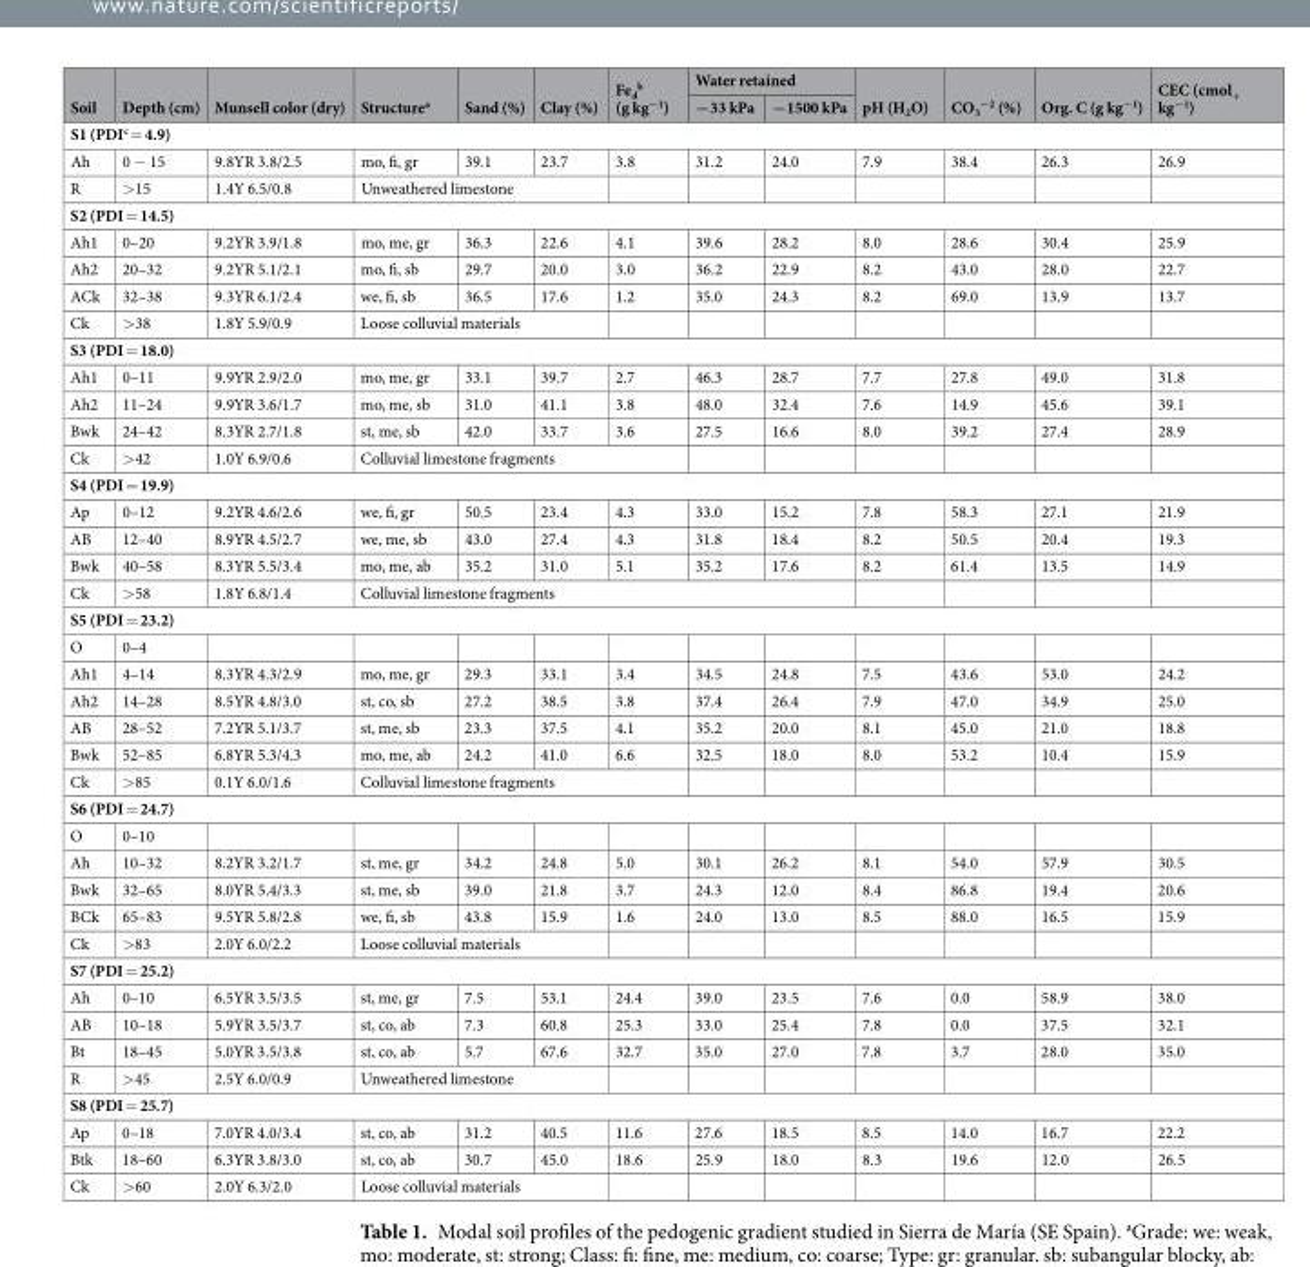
<table><thead><tr><td rowspan="2">Soil</td><td rowspan="2">Depth (cm)</td><td rowspan="2">Munsell color (dry)</td><td rowspan="2">Structure<sup>a</sup></td><td rowspan="2">Sand (%)</td><td rowspan="2">Clay (%)</td><td rowspan="2">Fe<sub>d</sub> <sup>b</sup> (g kg<sup>−1</sup>)</td><td colspan="2">Water retained</td><td rowspan="2">pH (H<sub>2</sub>O)</td><td rowspan="2">CO<sub>3</sub> <sup>−2</sup> (%)</td><td rowspan="2">Org. C (g kg<sup>−1</sup>)</td><td rowspan="2">CEC (cmol<sub>+</sub> kg<sup>−1</sup>)</td></tr><tr><td>−33 kPa</td><td>−1500 kPa</td></tr></thead><tbody><tr><td colspan="13">S1 (PDI<sup>c</sup> = 4.9)</td></tr><tr><td>Ah</td><td>0 − 15</td><td>9.8YR 3.8/2.5</td><td>mo, fi, gr</td><td>39.1</td><td>23.7</td><td>3.8</td><td>31.2</td><td>24.0</td><td>7.9</td><td>38.4</td><td>26.3</td><td>26.9</td></tr><tr><td>R</td><td>&gt;15</td><td>1.4Y 6.5/0.8</td><td colspan="3">Unweathered limestone</td><td></td><td></td><td></td><td></td><td></td><td></td><td></td></tr><tr><td colspan="13">S2 (PDI = 14.5)</td></tr><tr><td>Ah1</td><td>0–20</td><td>9.2YR 3.9/1.8</td><td>mo, me, gr</td><td>36.3</td><td>22.6</td><td>4.1</td><td>39.6</td><td>28.2</td><td>8.0</td><td>28.6</td><td>30.4</td><td>25.9</td></tr><tr><td>Ah2</td><td>20–32</td><td>9.2YR 5.1/2.1</td><td>mo, fi, sb</td><td>29.7</td><td>20.0</td><td>3.0</td><td>36.2</td><td>22.9</td><td>8.2</td><td>43.0</td><td>28.0</td><td>22.7</td></tr><tr><td>ACk</td><td>32–38</td><td>9.3YR 6.1/2.4</td><td>we, fi, sb</td><td>36.5</td><td>17.6</td><td>1.2</td><td>35.0</td><td>24.3</td><td>8.2</td><td>69.0</td><td>13.9</td><td>13.7</td></tr><tr><td>Ck</td><td>&gt;38</td><td>1.8Y 5.9/0.9</td><td colspan="3">Loose colluvial materials</td><td></td><td></td><td></td><td></td><td></td><td></td><td></td></tr><tr><td colspan="13">S3 (PDI = 18.0)</td></tr><tr><td>Ah1</td><td>0–11</td><td>9.9YR 2.9/2.0</td><td>mo, me, gr</td><td>33.1</td><td>39.7</td><td>2.7</td><td>46.3</td><td>28.7</td><td>7.7</td><td>27.8</td><td>49.0</td><td>31.8</td></tr><tr><td>Ah2</td><td>11–24</td><td>9.9YR 3.6/1.7</td><td>mo, me, sb</td><td>31.0</td><td>41.1</td><td>3.8</td><td>48.0</td><td>32.4</td><td>7.6</td><td>14.9</td><td>45.6</td><td>39.1</td></tr><tr><td>Bwk</td><td>24–42</td><td>8.3YR 2.7/1.8</td><td>st, me, sb</td><td>42.0</td><td>33.7</td><td>3.6</td><td>27.5</td><td>16.6</td><td>8.0</td><td>39.2</td><td>27.4</td><td>28.9</td></tr><tr><td>Ck</td><td>&gt;42</td><td>1.0Y 6.9/0.6</td><td colspan="4">Colluvial limestone fragments</td><td></td><td></td><td></td><td></td><td></td><td></td></tr><tr><td colspan="13">S4 (PDI = 19.9)</td></tr><tr><td>Ap</td><td>0–12</td><td>9.2YR 4.6/2.6</td><td>we, fi, gr</td><td>50.5</td><td>23.4</td><td>4.3</td><td>33.0</td><td>15.2</td><td>7.8</td><td>58.3</td><td>27.1</td><td>21.9</td></tr><tr><td>AB</td><td>12–40</td><td>8.9YR 4.5/2.7</td><td>we, me, sb</td><td>43.0</td><td>27.4</td><td>4.3</td><td>31.8</td><td>18.4</td><td>8.2</td><td>50.5</td><td>20.4</td><td>19.3</td></tr><tr><td>Bwk</td><td>40–58</td><td>8.3YR 5.5/3.4</td><td>mo, me, ab</td><td>35.2</td><td>31.0</td><td>5.1</td><td>35.2</td><td>17.6</td><td>8.2</td><td>61.4</td><td>13.5</td><td>14.9</td></tr><tr><td>Ck</td><td>&gt;58</td><td>1.8Y 6.8/1.4</td><td colspan="6">Colluvial limestone fragments</td><td></td><td></td><td></td><td></td></tr><tr><td colspan="13">S5 (PDI = 23.2)</td></tr><tr><td>O</td><td>0–4</td><td></td><td></td><td></td><td></td><td></td><td></td><td></td><td></td><td></td><td></td><td></td></tr><tr><td>Ah1</td><td>4–14</td><td>8.3YR 4.3/2.9</td><td>mo, me, gr</td><td>29.3</td><td>33.1</td><td>3.4</td><td>34.5</td><td>24.8</td><td>7.5</td><td>43.6</td><td>53.0</td><td>24.2</td></tr><tr><td>Ah2</td><td>14–28</td><td>8.5YR 4.8/3.0</td><td>st, co, sb</td><td>27.2</td><td>38.5</td><td>3.8</td><td>37.4</td><td>26.4</td><td>7.9</td><td>47.0</td><td>34.9</td><td>25.0</td></tr><tr><td>AB</td><td>28–52</td><td>7.2YR 5.1/3.7</td><td>st, me, sb</td><td>23.3</td><td>37.5</td><td>4.1</td><td>35.2</td><td>20.0</td><td>8.1</td><td>45.0</td><td>21.0</td><td>18.8</td></tr><tr><td>Bwk</td><td>52–85</td><td>6.8YR 5.3/4.3</td><td>mo, me, ab</td><td>24.2</td><td>41.0</td><td>6.6</td><td>32.5</td><td>18.0</td><td>8.0</td><td>53.2</td><td>10.4</td><td>15.9</td></tr><tr><td>Ck</td><td>&gt;85</td><td>0.1Y 6.0/1.6</td><td colspan="4">Colluvial limestone fragments</td><td></td><td></td><td></td><td></td><td></td><td></td></tr><tr><td colspan="13">S6 (PDI = 24.7)</td></tr><tr><td>O</td><td>0–10</td><td></td><td></td><td></td><td></td><td></td><td></td><td></td><td></td><td></td><td></td><td></td></tr><tr><td>Ah</td><td>10–32</td><td>8.2YR 3.2/1.7</td><td>st, me, gr</td><td>34.2</td><td>24.8</td><td>5.0</td><td>30.1</td><td>26.2</td><td>8.1</td><td>54.0</td><td>57.9</td><td>30.5</td></tr><tr><td>Bwk</td><td>32–65</td><td>8.0YR 5.4/3.3</td><td>st, me, sb</td><td>39.0</td><td>21.8</td><td>3.7</td><td>24.3</td><td>12.0</td><td>8.4</td><td>86.8</td><td>19.4</td><td>20.6</td></tr><tr><td>BCk</td><td>65–83</td><td>9.5YR 5.8/2.8</td><td>we, fi, sb</td><td>43.8</td><td>15.9</td><td>1.6</td><td>24.0</td><td>13.0</td><td>8.5</td><td>88.0</td><td>16.5</td><td>15.9</td></tr><tr><td>Ck</td><td>&gt;83</td><td>2.0Y 6.0/2.2</td><td colspan="3">Loose colluvial materials</td><td></td><td></td><td></td><td></td><td></td><td></td><td></td></tr><tr><td colspan="13">S7 (PDI = 25.2)</td></tr><tr><td>Ah</td><td>0–10</td><td>6.5YR 3.5/3.5</td><td>st, me, gr</td><td>7.5</td><td>53.1</td><td>24.4</td><td>39.0</td><td>23.5</td><td>7.6</td><td>0.0</td><td>58.9</td><td>38.0</td></tr><tr><td>AB</td><td>10–18</td><td>5.9YR 3.5/3.7</td><td>st, co, ab</td><td>7.3</td><td>60.8</td><td>25.3</td><td>33.0</td><td>25.4</td><td>7.8</td><td>0.0</td><td>37.5</td><td>32.1</td></tr><tr><td>Bt</td><td>18–45</td><td>5.0YR 3.5/3.8</td><td>st, co, ab</td><td>5.7</td><td>67.6</td><td>32.7</td><td>35.0</td><td>27.0</td><td>7.8</td><td>3.7</td><td>28.0</td><td>35.0</td></tr><tr><td>R</td><td>&gt;45</td><td>2.5Y 6.0/0.9</td><td colspan="3">Unweathered limestone</td><td></td><td></td><td></td><td></td><td></td><td></td><td></td></tr><tr><td colspan="13">S8 (PDI = 25.7)</td></tr><tr><td>Ap</td><td>0–18</td><td>7.0YR 4.0/3.4</td><td>st, co, ab</td><td>31.2</td><td>40.5</td><td>11.6</td><td>27.6</td><td>18.5</td><td>8.5</td><td>14.0</td><td>16.7</td><td>22.2</td></tr><tr><td>Btk</td><td>18–60</td><td>6.3YR 3.8/3.0</td><td>st, co, ab</td><td>30.7</td><td>45.0</td><td>18.6</td><td>25.9</td><td>18.0</td><td>8.3</td><td>19.6</td><td>12.0</td><td>26.5</td></tr><tr><td>Ck</td><td>&gt;60</td><td>2.0Y 6.3/2.0</td><td colspan="3">Loose colluvial materials</td><td></td><td></td><td></td><td></td><td></td><td></td><td></td></tr></tbody></table>